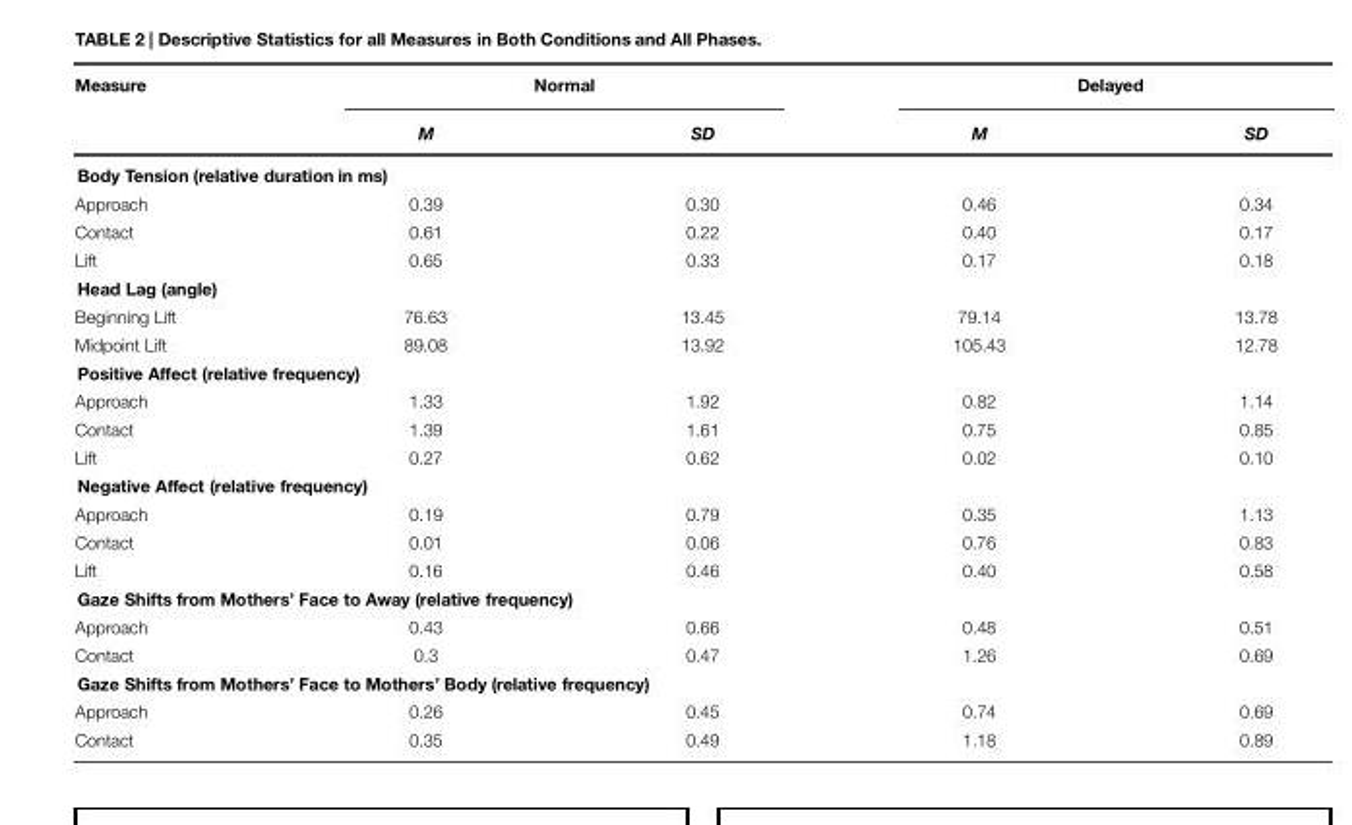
<table><thead><tr><td rowspan="2">Measure</td><td colspan="2">Normal</td><td colspan="2">Delayed</td></tr><tr><td>M</td><td>SD</td><td>M</td><td>SD</td></tr></thead><tbody><tr><td colspan="5">Body Tension (relative duration in ms)</td></tr><tr><td>Approach</td><td>0.39</td><td>0.30</td><td>0.46</td><td>0.34</td></tr><tr><td>Contact</td><td>0.61</td><td>0.22</td><td>0.40</td><td>0.17</td></tr><tr><td>Lift</td><td>0.65</td><td>0.33</td><td>0.17</td><td>0.18</td></tr><tr><td colspan="5">Head Lag (angle)</td></tr><tr><td>Beginning Lift</td><td>76.63</td><td>13.45</td><td>79.14</td><td>13.78</td></tr><tr><td>Midpoint Lift</td><td>89.08</td><td>13.92</td><td>105.43</td><td>12.78</td></tr><tr><td colspan="5">Positive Affect (relative frequency)</td></tr><tr><td>Approach</td><td>1.33</td><td>1.92</td><td>0.82</td><td>1.14</td></tr><tr><td>Contact</td><td>1.39</td><td>1.61</td><td>0.75</td><td>0.85</td></tr><tr><td>Lift</td><td>0.27</td><td>0.62</td><td>0.02</td><td>0.10</td></tr><tr><td colspan="5">Negative Affect (relative frequency)</td></tr><tr><td>Approach</td><td>0.19</td><td>0.79</td><td>0.35</td><td>1.13</td></tr><tr><td>Contact</td><td>0.01</td><td>0.06</td><td>0.76</td><td>0.83</td></tr><tr><td>Lift</td><td>0.16</td><td>0.46</td><td>0.40</td><td>0.58</td></tr><tr><td colspan="5">Gaze Shifts from Mothers’ Face to Away (relative frequency)</td></tr><tr><td>Approach</td><td>0.43</td><td>0.66</td><td>0.48</td><td>0.51</td></tr><tr><td>Contact</td><td>0.3</td><td>0.47</td><td>1.26</td><td>0.69</td></tr><tr><td colspan="5">Gaze Shifts from Mothers’ Face to Mothers’ Body (relative frequency)</td></tr><tr><td>Approach</td><td>0.26</td><td>0.45</td><td>0.74</td><td>0.69</td></tr><tr><td>Contact</td><td>0.35</td><td>0.49</td><td>1.18</td><td>0.89</td></tr></tbody></table>